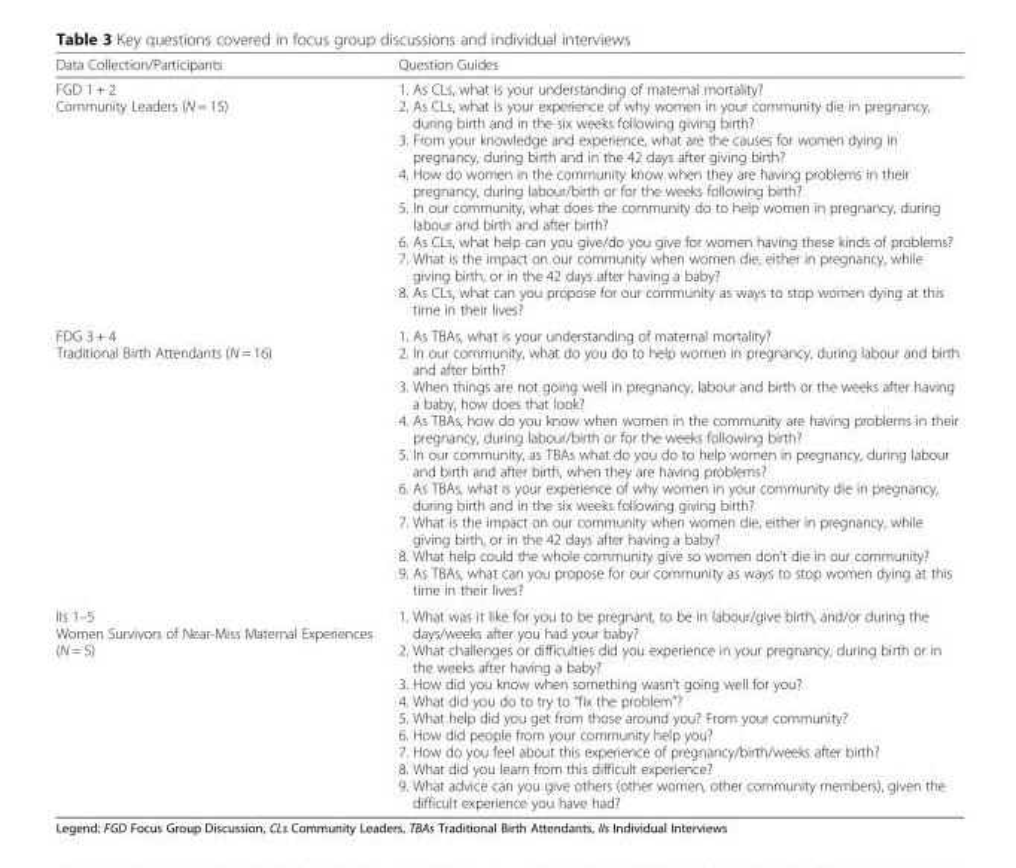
<table><thead><tr><td>Data Collection/Participants</td><td>Question Guides</td></tr></thead><tbody><tr><td>FGD 1 + 2 Community Leaders (N = 15)</td><td>1. As CLs, what is your understanding of maternal mortality? 2. As CLs, what is your experience of why women in your community die in pregnancy, during birth and in the six weeks following giving birth? 3. From your knowledge and experience, what are the causes for women dying in pregnancy, during birth and in the 42 days after giving birth? 4. How do women in the community know when they are having problems in their pregnancy, during labour/birth or for the weeks following birth? 5. In our community, what does the community do to help women in pregnancy, during labour and birth and after birth? 6. As CLs, what help can you give/do you give for women having these kinds of problems? 7. What is the impact on our community when women die, either in pregnancy, while giving birth, or in the 42 days after having a baby? 8. As CLs, what can you propose for our community as ways to stop women dying at this time in their lives?</td></tr><tr><td>FDG 3 + 4 Traditional Birth Attendants (N = 16)</td><td>1. As TBAs, what is your understanding of maternal mortality? 2. In our community, what do you do to help women in pregnancy, during labour and birth and after birth? 3. When things are not going well in pregnancy, labour and birth or the weeks after having a baby, how does that look? 4. As TBAs, how do you know when women in the community are having problems in their pregnancy, during labour/birth or for the weeks following birth? 5. In our community, as TBAs what do you do to help women in pregnancy, during labour and birth and after birth, when they are having problems? 6. As TBAs, what is your experience of why women in your community die in pregnancy, during birth and in the six weeks following giving birth? 7. What is the impact on our community when women die, either in pregnancy, while giving birth, or in the 42 days after having a baby? 8. What help could the whole community give so women don’t die in our community? 9. As TBAs, what can you propose for our community as ways to stop women dying at this time in their lives?</td></tr><tr><td>IIs 1–5 Women Survivors of Near-Miss Maternal Experiences (N = 5)</td><td>1. What was it like for you to be pregnant, to be in labour/give birth, and/or during the days/weeks after you had your baby? 2. What challenges or difficulties did you experience in your pregnancy, during birth or in the weeks after having a baby? 3. How did you know when something wasn’t going well for you? 4. What did you do to try to “fix the problem”? 5. What help did you get from those around you? From your community? 6. How did people from your community help you? 7. How do you feel about this experience of pregnancy/birth/weeks after birth? 8. What did you learn from this difficult experience? 9. What advice can you give others (other women, other community members), given the difficult experience you have had?</td></tr></tbody></table>